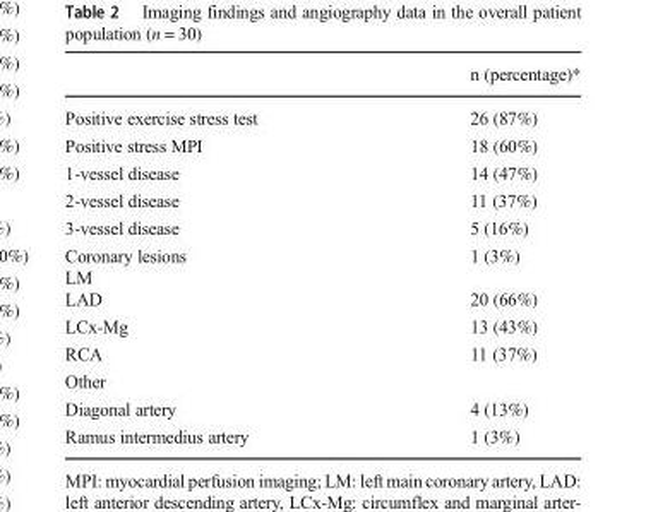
<table><thead><tr><td></td><td>n (percentage)*</td></tr></thead><tbody><tr><td>Positive exercise stress test</td><td>26 (87%)</td></tr><tr><td>Positive stress MPI</td><td>18 (60%)</td></tr><tr><td>1-vessel disease</td><td>14 (47%)</td></tr><tr><td>2-vessel disease</td><td>11 (37%)</td></tr><tr><td>3-vessel disease</td><td>5 (16%)</td></tr><tr><td>Coronary lesions LM</td><td>1 (3%)</td></tr><tr><td>LAD</td><td>20 (66%)</td></tr><tr><td>LCx-Mg</td><td>13 (43%)</td></tr><tr><td>RCA</td><td>11 (37%)</td></tr><tr><td colspan="2">Other</td></tr><tr><td>Diagonal artery</td><td>4 (13%)</td></tr><tr><td>Ramus intermedius artery</td><td>1 (3%)</td></tr></tbody></table>